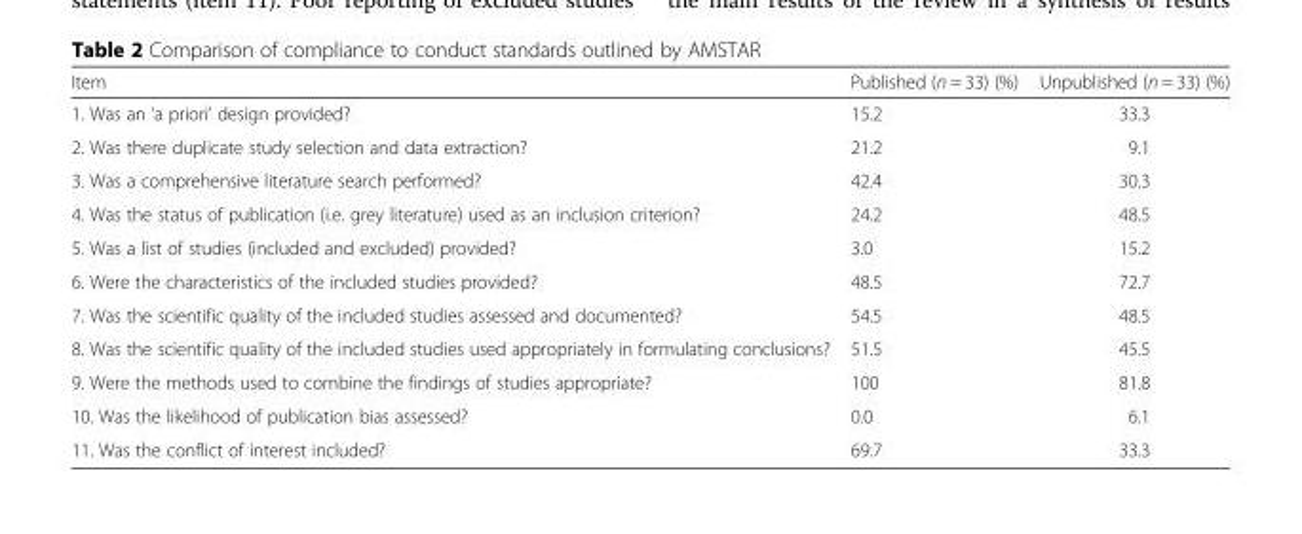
<table><thead><tr><td>Item</td><td>Published (n = 33) (%)</td><td>Unpublished (n = 33) (%)</td></tr></thead><tbody><tr><td>1. Was an ‘a priori’ design provided?</td><td>15.2</td><td>33.3</td></tr><tr><td>2. Was there duplicate study selection and data extraction?</td><td>21.2</td><td>9.1</td></tr><tr><td>3. Was a comprehensive literature search performed?</td><td>42.4</td><td>30.3</td></tr><tr><td>4. Was the status of publication (i.e. grey literature) used as an inclusion criterion?</td><td>24.2</td><td>48.5</td></tr><tr><td>5. Was a list of studies (included and excluded) provided?</td><td>3.0</td><td>15.2</td></tr><tr><td>6. Were the characteristics of the included studies provided?</td><td>48.5</td><td>72.7</td></tr><tr><td>7. Was the scientific quality of the included studies assessed and documented?</td><td>54.5</td><td>48.5</td></tr><tr><td>8. Was the scientific quality of the included studies used appropriately in formulating conclusions?</td><td>51.5</td><td>45.5</td></tr><tr><td>9. Were the methods used to combine the findings of studies appropriate?</td><td>100</td><td>81.8</td></tr><tr><td>10. Was the likelihood of publication bias assessed?</td><td>0.0</td><td>6.1</td></tr><tr><td>11. Was the conflict of interest included?</td><td>69.7</td><td>33.3</td></tr></tbody></table>